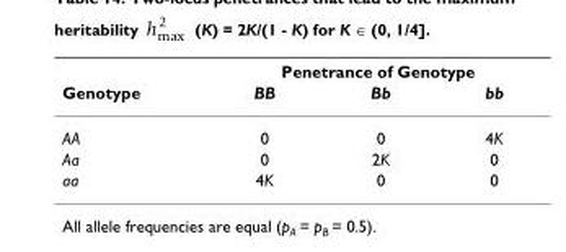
<table><thead><tr><td rowspan="2">Genotype</td><td colspan="3">Penetrance of Genotype</td></tr><tr><td>BB</td><td>Bb</td><td>bb</td></tr></thead><tbody><tr><td>AA</td><td>0</td><td>0</td><td>4K</td></tr><tr><td>Aa</td><td>0</td><td>2K</td><td>0</td></tr><tr><td>aa</td><td>4K</td><td>0</td><td>0</td></tr></tbody></table>